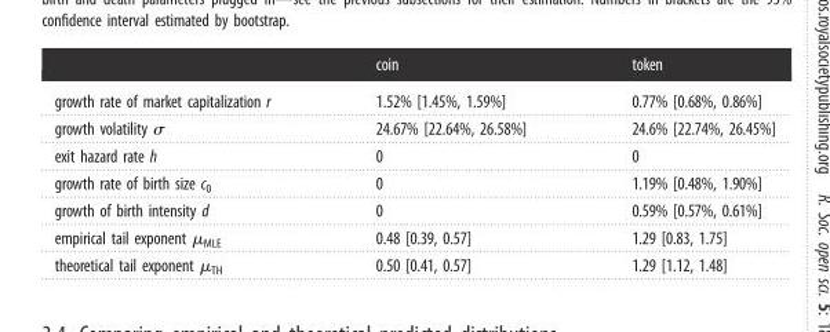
<table><thead><tr><td></td><td>coin</td><td>token</td></tr></thead><tbody><tr><td>growth rate of market capitalization r</td><td>1.52% [1.45%, 1.59%]</td><td>0.77% [0.68%, 0.86%]</td></tr><tr><td>growth volatility σ</td><td>24.67% [22.64%, 26.58%]</td><td>24.6% [22.74%, 26.45%]</td></tr><tr><td>exit hazard rate h</td><td>0</td><td>0</td></tr><tr><td>growth rate of birth size c<sub>0</sub></td><td>0</td><td>1.19% [0.48%, 1.90%]</td></tr><tr><td>growth of birth intensity d</td><td>0</td><td>0.59% [0.57%, 0.61%]</td></tr><tr><td>empirical tail exponent μ<sub>MLE</sub></td><td>0.48 [0.39, 0.57]</td><td>1.29 [0.83, 1.75]</td></tr><tr><td>theoretical tail exponent μ<sub>TH</sub></td><td>0.50 [0.41, 0.57]</td><td>1.29 [1.12, 1.48]</td></tr></tbody></table>